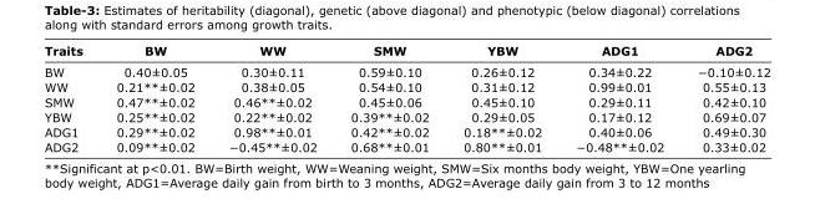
<table><thead><tr><td>Traits</td><td>BW</td><td>WW</td><td>SMW</td><td>YBW</td><td>ADG1</td><td>ADG2</td></tr></thead><tbody><tr><td>BW</td><td>0.40±0.05</td><td>0.30±0.11</td><td>0.59±0.10</td><td>0.26±0.12</td><td>0.34±0.22</td><td>−0.10±0.12</td></tr><tr><td>WW</td><td>0.21**±0.02</td><td>0.38±0.05</td><td>0.54±0.10</td><td>0.31±0.12</td><td>0.99±0.01</td><td>0.55±0.13</td></tr><tr><td>SMW</td><td>0.47**±0.02</td><td>0.46**±0.02</td><td>0.45±0.06</td><td>0.45±0.10</td><td>0.29±0.11</td><td>0.42±0.10</td></tr><tr><td>YBW</td><td>0.25**±0.02</td><td>0.22**±0.02</td><td>0.39**±0.02</td><td>0.29±0.05</td><td>0.17±0.12</td><td>0.69±0.07</td></tr><tr><td>ADG1</td><td>0.29**±0.02</td><td>0.98**±0.01</td><td>0.42**±0.02</td><td>0.18**±0.02</td><td>0.40±0.06</td><td>0.49±0.30</td></tr><tr><td>ADG2</td><td>0.09**±0.02</td><td>−0.45**±0.02</td><td>0.68**±0.01</td><td>0.80**±0.01</td><td>−0.48**±0.02</td><td>0.33±0.02</td></tr></tbody></table>